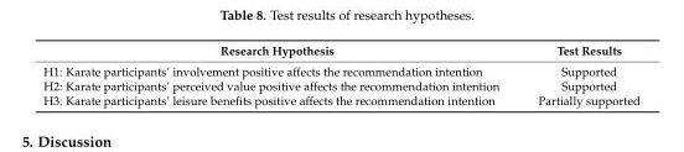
<table><thead><tr><td>Research Hypothesis</td><td>Test Results</td></tr></thead><tbody><tr><td>H1: Karate participants’ involvement positive affects the recommendation intention</td><td>Supported</td></tr><tr><td>H2: Karate participants’ perceived value positive affects the recommendation intention</td><td>Supported</td></tr><tr><td>H3: Karate participants’ leisure benefits positive affects the recommendation intention</td><td>Partially supported</td></tr></tbody></table>